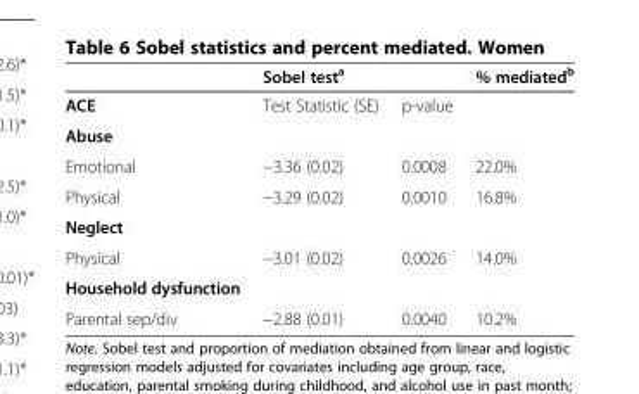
<table><thead><tr><td rowspan="2">ACE</td><td colspan="2">Sobel test<sup>a</sup></td><td rowspan="2">% mediated<sup>b</sup></td></tr><tr><td>Test Statistic (SE)</td><td>p-value</td></tr></thead><tbody><tr><td colspan="4">Abuse</td></tr><tr><td>Emotional</td><td>−3.36 (0.02)</td><td>0.0008</td><td>22.0%</td></tr><tr><td>Physical</td><td>−3.29 (0.02)</td><td>0.0010</td><td>16.8%</td></tr><tr><td colspan="4">Neglect</td></tr><tr><td>Physical</td><td>−3.01 (0.02)</td><td>0.0026</td><td>14.0%</td></tr><tr><td colspan="4">Household dysfunction</td></tr><tr><td>Parental sep/div</td><td>−2.88 (0.01)</td><td>0.0040</td><td>10.2%</td></tr></tbody></table>